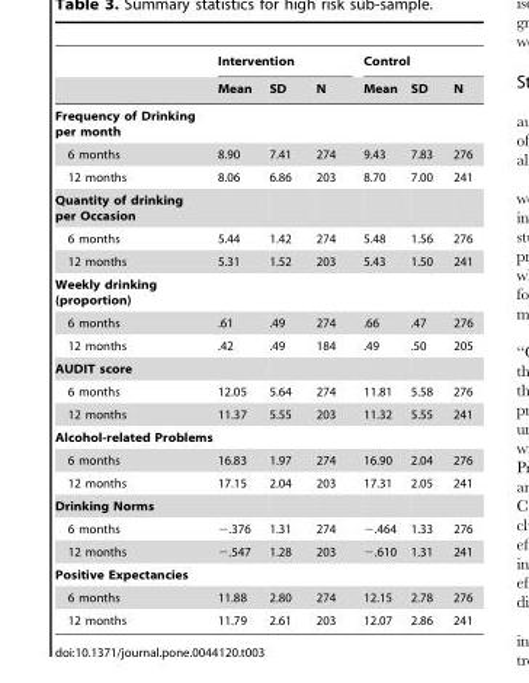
<table><thead><tr><td rowspan="2"></td><td colspan="3">Intervention</td><td colspan="3">Control</td></tr><tr><td>Mean</td><td>SD</td><td>N</td><td>Mean</td><td>SD</td><td>N</td></tr></thead><tbody><tr><td colspan="7">Frequency of Drinking per month</td></tr><tr><td>6 months</td><td>8.90</td><td>7.41</td><td>274</td><td>9.43</td><td>7.83</td><td>276</td></tr><tr><td>12 months</td><td>8.06</td><td>6.86</td><td>203</td><td>8.70</td><td>7.00</td><td>241</td></tr><tr><td colspan="7">Quantity of drinking per Occasion</td></tr><tr><td>6 months</td><td>5.44</td><td>1.42</td><td>274</td><td>5.48</td><td>1.56</td><td>276</td></tr><tr><td>12 months</td><td>5.31</td><td>1.52</td><td>203</td><td>5.43</td><td>1.50</td><td>241</td></tr><tr><td colspan="7">Weekly drinking (proportion)</td></tr><tr><td>6 months</td><td>.61</td><td>.49</td><td>274</td><td>.66</td><td>.47</td><td>276</td></tr><tr><td>12 months</td><td>.42</td><td>.49</td><td>184</td><td>.49</td><td>.50</td><td>205</td></tr><tr><td colspan="7">AUDIT score</td></tr><tr><td>6 months</td><td>12.05</td><td>5.64</td><td>274</td><td>11.81</td><td>5.58</td><td>276</td></tr><tr><td>12 months</td><td>11.37</td><td>5.55</td><td>203</td><td>11.32</td><td>5.55</td><td>241</td></tr><tr><td colspan="7">Alcohol-related Problems</td></tr><tr><td>6 months</td><td>16.83</td><td>1.97</td><td>274</td><td>16.90</td><td>2.04</td><td>276</td></tr><tr><td>12 months</td><td>17.15</td><td>2.04</td><td>203</td><td>17.31</td><td>2.05</td><td>241</td></tr><tr><td colspan="7">Drinking Norms</td></tr><tr><td>6 months</td><td>−.376</td><td>1.31</td><td>274</td><td>−.464</td><td>1.33</td><td>276</td></tr><tr><td>12 months</td><td>−.547</td><td>1.28</td><td>203</td><td>−.610</td><td>1.31</td><td>241</td></tr><tr><td colspan="7">Positive Expectancies</td></tr><tr><td>6 months</td><td>11.88</td><td>2.80</td><td>274</td><td>12.15</td><td>2.78</td><td>276</td></tr><tr><td>12 months</td><td>11.79</td><td>2.61</td><td>203</td><td>12.07</td><td>2.86</td><td>241</td></tr></tbody></table>